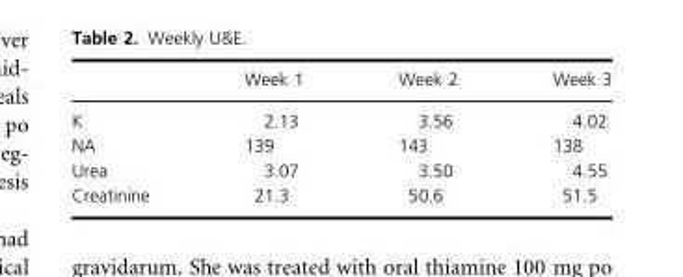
<table><thead><tr><td></td><td>Week 1</td><td>Week 2</td><td>Week 3</td></tr></thead><tbody><tr><td>K</td><td>2.13</td><td>3.56</td><td>4.02</td></tr><tr><td>NA</td><td>139</td><td>143</td><td>138</td></tr><tr><td>Urea</td><td>3.07</td><td>3.50</td><td>4.55</td></tr><tr><td>Creatinine</td><td>21.3</td><td>50.6</td><td>51.5</td></tr></tbody></table>